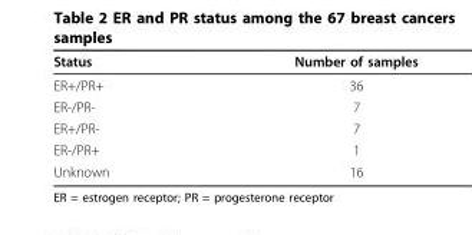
<table><thead><tr><td>Status</td><td>Number of samples</td></tr></thead><tbody><tr><td>ER+/PR+</td><td>36</td></tr><tr><td>ER-/PR-</td><td>7</td></tr><tr><td>ER+/PR-</td><td>7</td></tr><tr><td>ER-/PR+</td><td>1</td></tr><tr><td>Unknown</td><td>16</td></tr></tbody></table>